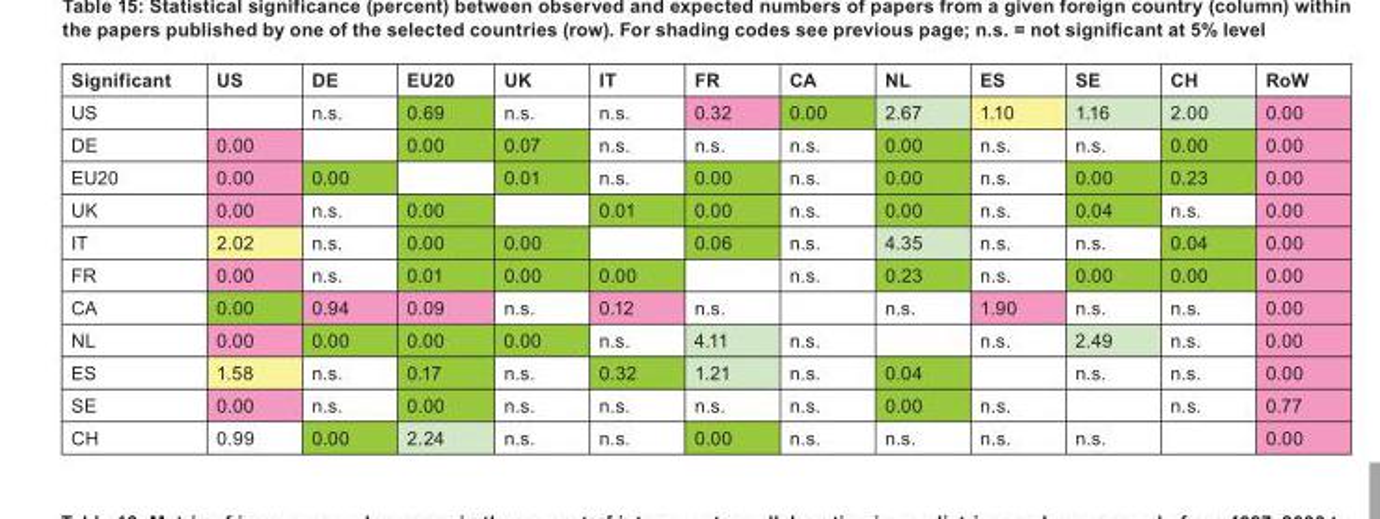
<table><thead><tr><td>Significant</td><td>US</td><td>DE</td><td>EU20</td><td>UK</td><td>IT</td><td>FR</td><td>CA</td><td>NL</td><td>ES</td><td>SE</td><td>CH</td><td>RoW</td></tr></thead><tbody><tr><td>US</td><td></td><td>n.s.</td><td>0.69</td><td>n.s.</td><td>n.s.</td><td>0.32</td><td>0.00</td><td>2.67</td><td>1.10</td><td>1.16</td><td>2.00</td><td>0.00</td></tr><tr><td>DE</td><td>0.00</td><td></td><td>0.00</td><td>0.07</td><td>n.s.</td><td>n.s.</td><td>n.s.</td><td>0.00</td><td>n.s.</td><td>n.s.</td><td>0.00</td><td>0.00</td></tr><tr><td>EU20</td><td>0.00</td><td>0.00</td><td></td><td>0.01</td><td>n.s.</td><td>0.00</td><td>n.s.</td><td>0.00</td><td>n.s.</td><td>0.00</td><td>0.23</td><td>0.00</td></tr><tr><td>UK</td><td>0.00</td><td>n.s.</td><td>0.00</td><td></td><td>0.01</td><td>0.00</td><td>n.s.</td><td>0.00</td><td>n.s.</td><td>0.04</td><td>n.s.</td><td>0.00</td></tr><tr><td>IT</td><td>2.02</td><td>n.s.</td><td>0.00</td><td>0.00</td><td></td><td>0.06</td><td>n.s.</td><td>4.35</td><td>n.s.</td><td>n.s.</td><td>0.04</td><td>0.00</td></tr><tr><td>FR</td><td>0.00</td><td>n.s.</td><td>0.01</td><td>0.00</td><td>0.00</td><td></td><td>n.s.</td><td>0.23</td><td>n.s.</td><td>0.00</td><td>0.00</td><td>0.00</td></tr><tr><td>CA</td><td>0.00</td><td>0.94</td><td>0.09</td><td>n.s.</td><td>0.12</td><td>n.s.</td><td></td><td>n.s.</td><td>1.90</td><td>n.s.</td><td>n.s.</td><td>0.00</td></tr><tr><td>NL</td><td>0.00</td><td>0.00</td><td>0.00</td><td>0.00</td><td>n.s.</td><td>4.11</td><td>n.s.</td><td></td><td>n.s.</td><td>2.49</td><td>n.s.</td><td>0.00</td></tr><tr><td>ES</td><td>1.58</td><td>n.s.</td><td>0.17</td><td>n.s.</td><td>0.32</td><td>1.21</td><td>n.s.</td><td>0.04</td><td></td><td>n.s.</td><td>n.s.</td><td>0.00</td></tr><tr><td>SE</td><td>0.00</td><td>n.s.</td><td>0.00</td><td>n.s.</td><td>n.s.</td><td>n.s.</td><td>n.s.</td><td>0.00</td><td>n.s.</td><td></td><td>n.s.</td><td>0.77</td></tr><tr><td>CH</td><td>0.99</td><td>0.00</td><td>2.24</td><td>n.s.</td><td>n.s.</td><td>0.00</td><td>n.s.</td><td>n.s.</td><td>n.s.</td><td>n.s.</td><td></td><td>0.00</td></tr></tbody></table>